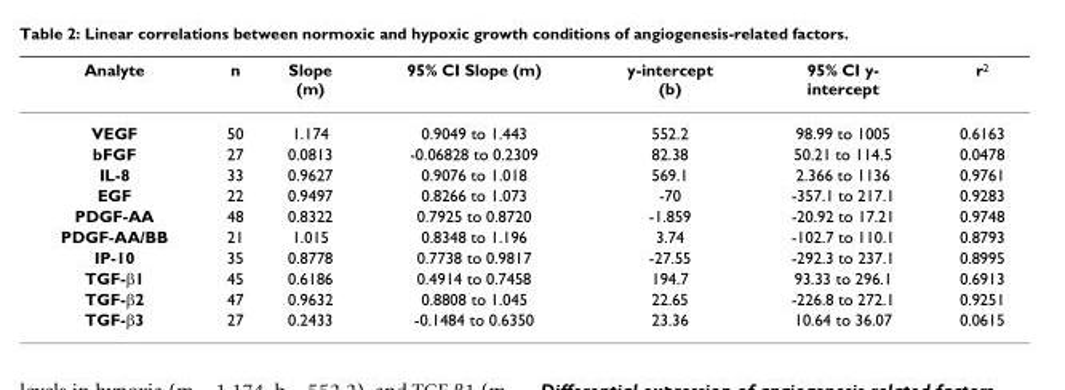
<table><thead><tr><td>Analyte</td><td>n</td><td>Slope (m)</td><td>95% CI Slope (m)</td><td>y-intercept (b)</td><td>95% CI y- intercept</td><td>r<sup>2</sup></td></tr></thead><tbody><tr><td>VEGF</td><td>50</td><td>1.174</td><td>0.9049 to 1.443</td><td>552.2</td><td>98.99 to 1005</td><td>0.6163</td></tr><tr><td>bFGF</td><td>27</td><td>0.0813</td><td>-0.06828 to 0.2309</td><td>82.38</td><td>50.21 to 114.5</td><td>0.0478</td></tr><tr><td>IL-8</td><td>33</td><td>0.9627</td><td>0.9076 to 1.018</td><td>569.1</td><td>2.366 to 1136</td><td>0.9761</td></tr><tr><td>EGF</td><td>22</td><td>0.9497</td><td>0.8266 to 1.073</td><td>-70</td><td>-357.1 to 217.1</td><td>0.9283</td></tr><tr><td>PDGF-AA</td><td>48</td><td>0.8322</td><td>0.7925 to 0.8720</td><td>-1.859</td><td>-20.92 to 17.21</td><td>0.9748</td></tr><tr><td>PDGF-AA/BB</td><td>21</td><td>1.015</td><td>0.8348 to 1.196</td><td>3.74</td><td>-102.7 to 110.1</td><td>0.8793</td></tr><tr><td>IP-10</td><td>35</td><td>0.8778</td><td>0.7738 to 0.9817</td><td>-27.55</td><td>-292.3 to 237.1</td><td>0.8995</td></tr><tr><td>TGF-β1</td><td>45</td><td>0.6186</td><td>0.4914 to 0.7458</td><td>194.7</td><td>93.33 to 296.1</td><td>0.6913</td></tr><tr><td>TGF-β2</td><td>47</td><td>0.9632</td><td>0.8808 to 1.045</td><td>22.65</td><td>-226.8 to 272.1</td><td>0.9251</td></tr><tr><td>TGF-β3</td><td>27</td><td>0.2433</td><td>-0.1484 to 0.6350</td><td>23.36</td><td>10.64 to 36.07</td><td>0.0615</td></tr></tbody></table>